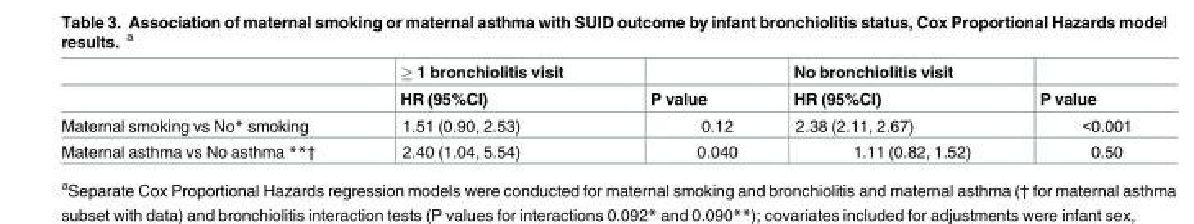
<table><thead><tr><td rowspan="2"></td><td rowspan="2">≥ 1 bronchiolitis visit HR (95%CI)</td><td rowspan="2">P value</td><td rowspan="2">No bronchiolitis visit HR (95%CI)</td><td rowspan="2">P value</td></tr><tr></tr></thead><tbody><tr><td>Maternal smoking vs No* smoking</td><td>1.51 (0.90, 2.53)</td><td>0.12</td><td>2.38 (2.11, 2.67)</td><td>&lt;0.001</td></tr><tr><td>Maternal asthma vs No asthma **†</td><td>2.40 (1.04, 5.54)</td><td>0.040</td><td>1.11 (0.82, 1.52)</td><td>0.50</td></tr></tbody></table>